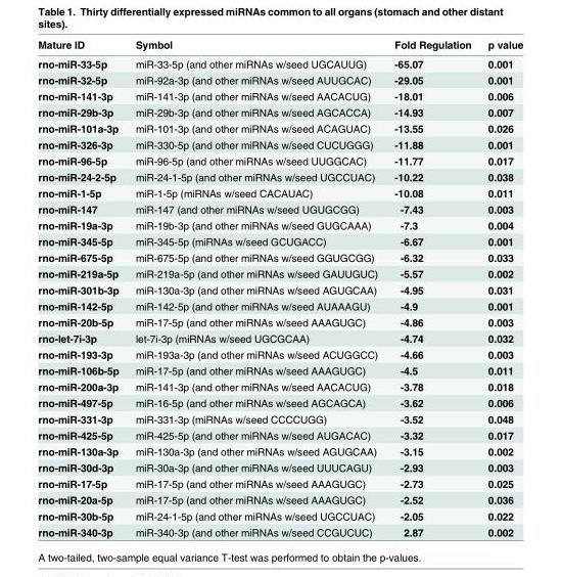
<table><thead><tr><td>Mature ID</td><td>Symbol</td><td>Fold Regulation</td><td>p value</td></tr></thead><tbody><tr><td>rno-miR-33-5p</td><td>miR-33-5p (and other miRNAs w/seed UGCAUUG)</td><td>-65.07</td><td>0.001</td></tr><tr><td>rno-miR-32-5p</td><td>miR-92a-3p (and other miRNAs w/seed AUUGCAC)</td><td>-29.05</td><td>0.001</td></tr><tr><td>rno-miR-141-3p</td><td>miR-141-3p (and other miRNAs w/seed AACACUG)</td><td>-18.01</td><td>0.006</td></tr><tr><td>rno-miR-29b-3p</td><td>miR-29b-3p (and other miRNAs w/seed AGCACCA)</td><td>-14.93</td><td>0.007</td></tr><tr><td>rno-miR-101a-3p</td><td>miR-101-3p (and other miRNAs w/seed ACAGUAC)</td><td>-13.55</td><td>0.026</td></tr><tr><td>rno-miR-326-3p</td><td>miR-330-5p (and other miRNAs w/seed CUCUGGG)</td><td>-11.88</td><td>0.001</td></tr><tr><td>rno-miR-96-5p</td><td>miR-96-5p (and other miRNAs w/seed UUGGCAC)</td><td>-11.77</td><td>0.017</td></tr><tr><td>rno-miR-24-2-5p</td><td>miR-24-1-5p (and other miRNAs w/seed UGCCUAC)</td><td>-10.22</td><td>0.038</td></tr><tr><td>rno-miR-1-5p</td><td>miR-1-5p (miRNAs w/seed CACAUAC)</td><td>-10.08</td><td>0.011</td></tr><tr><td>rno-miR-147</td><td>miR-147 (and other miRNAs w/seed UGUGCGG)</td><td>-7.43</td><td>0.003</td></tr><tr><td>rno-miR-19a-3p</td><td>miR-19b-3p (and other miRNAs w/seed GUGCAAA)</td><td>-7.3</td><td>0.004</td></tr><tr><td>rno-miR-345-5p</td><td>miR-345-5p (miRNAs w/seed GCUGACC)</td><td>-6.67</td><td>0.001</td></tr><tr><td>rno-miR-675-5p</td><td>miR-675-5p (and other miRNAs w/seed GGUGCGG)</td><td>-6.32</td><td>0.033</td></tr><tr><td>rno-miR-219a-5p</td><td>miR-219a-5p (and other miRNAs w/seed GAUUGUC)</td><td>-5.57</td><td>0.002</td></tr><tr><td>rno-miR-301b-3p</td><td>miR-130a-3p (and other miRNAs w/seed AGUGCAA)</td><td>-4.95</td><td>0.031</td></tr><tr><td>rno-miR-142-5p</td><td>miR-142-5p (and other miRNAs w/seed AUAAAGU)</td><td>-4.9</td><td>0.001</td></tr><tr><td>rno-miR-20b-5p</td><td>miR-17-5p (and other miRNAs w/seed AAAGUGC)</td><td>-4.86</td><td>0.003</td></tr><tr><td>rno-let-7i-3p</td><td>let-7i-3p (miRNAs w/seed UGCGCAA)</td><td>-4.74</td><td>0.032</td></tr><tr><td>rno-miR-193-3p</td><td>miR-193a-3p (and other miRNAs w/seed ACUGGCC)</td><td>-4.66</td><td>0.003</td></tr><tr><td>rno-miR-106b-5p</td><td>miR-17-5p (and other miRNAs w/seed AAAGUGC)</td><td>-4.5</td><td>0.011</td></tr><tr><td>rno-miR-200a-3p</td><td>miR-141-3p (and other miRNAs w/seed AACACUG)</td><td>-3.78</td><td>0.018</td></tr><tr><td>rno-miR-497-5p</td><td>miR-16-5p (and other miRNAs w/seed AGCAGCA)</td><td>-3.62</td><td>0.006</td></tr><tr><td>rno-miR-331-3p</td><td>miR-331-3p (miRNAs w/seed CCCCUGG)</td><td>-3.52</td><td>0.048</td></tr><tr><td>rno-miR-425-5p</td><td>miR-425-5p (and other miRNAs w/seed AUGACAC)</td><td>-3.32</td><td>0.017</td></tr><tr><td>rno-miR-130a-3p</td><td>miR-130a-3p (and other miRNAs w/seed AGUGCAA)</td><td>-3.15</td><td>0.002</td></tr><tr><td>rno-miR-30d-3p</td><td>miR-30a-3p (and other miRNAs w/seed UUUCAGU)</td><td>-2.93</td><td>0.003</td></tr><tr><td>rno-miR-17-5p</td><td>miR-17-5p (and other miRNAs w/seed AAAGUGC)</td><td>-2.73</td><td>0.025</td></tr><tr><td>rno-miR-20a-5p</td><td>miR-17-5p (and other miRNAs w/seed AAAGUGC)</td><td>-2.52</td><td>0.036</td></tr><tr><td>rno-miR-30b-5p</td><td>miR-24-1-5p (and other miRNAs w/seed UGCCUAC)</td><td>-2.05</td><td>0.022</td></tr><tr><td>rno-miR-340-3p</td><td>miR-340-3p (and other miRNAs w/seed CCGUCUC)</td><td>2.87</td><td>0.002</td></tr></tbody></table>